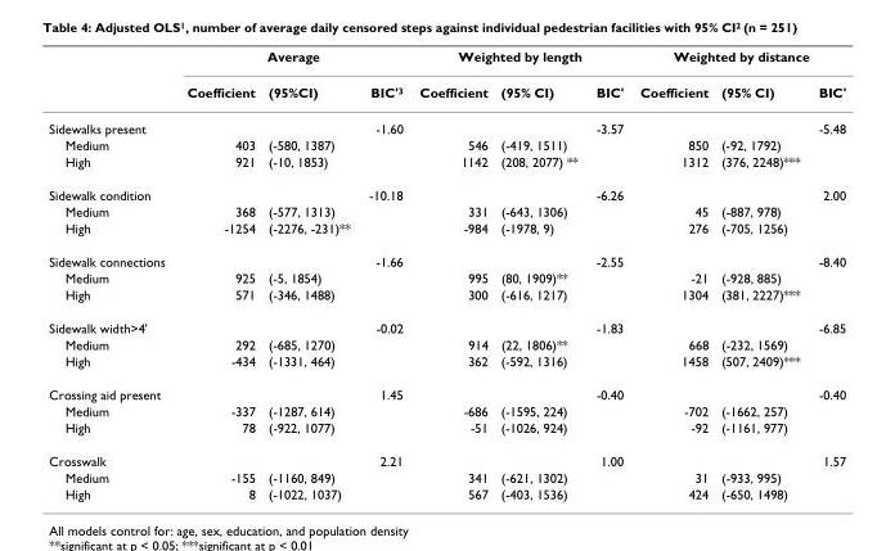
<table><thead><tr><td rowspan="2"></td><td colspan="3">Average</td><td colspan="3">Weighted by length</td><td colspan="3">Weighted by distance</td></tr><tr><td>Coefficient</td><td>(95%CI)</td><td>BIC&#x27;<sup>3</sup></td><td>Coefficient</td><td>(95% CI)</td><td>BIC&#x27;</td><td>Coefficient</td><td>(95% CI)</td><td>BIC&#x27;</td></tr></thead><tbody><tr><td>Sidewalks present</td><td></td><td></td><td>-1.60</td><td></td><td></td><td>-3.57</td><td></td><td></td><td>-5.48</td></tr><tr><td>Medium</td><td>403</td><td>(-580, 1387)</td><td></td><td>546</td><td>(-419, 1511)</td><td></td><td>850</td><td>(-92, 1792)</td><td></td></tr><tr><td>High</td><td>921</td><td>(-10, 1853)</td><td></td><td>1142</td><td>(208, 2077) **</td><td></td><td>1312</td><td>(376, 2248)***</td><td></td></tr><tr><td>Sidewalk condition</td><td></td><td></td><td>-10.18</td><td></td><td></td><td>-6.26</td><td></td><td></td><td>2.00</td></tr><tr><td>Medium</td><td>368</td><td>(-577, 1313)</td><td></td><td>331</td><td>(-643, 1306)</td><td></td><td>45</td><td>(-887, 978)</td><td></td></tr><tr><td>High</td><td>-1254</td><td>(-2276, -231)**</td><td></td><td>-984</td><td>(-1978, 9)</td><td></td><td>276</td><td>(-705, 1256)</td><td></td></tr><tr><td>Sidewalk connections</td><td></td><td></td><td>-1.66</td><td></td><td></td><td>-2.55</td><td></td><td></td><td>-8.40</td></tr><tr><td>Medium</td><td>925</td><td>(-5, 1854)</td><td></td><td>995</td><td>(80, 1909)**</td><td></td><td>-21</td><td>(-928, 885)</td><td></td></tr><tr><td>High</td><td>571</td><td>(-346, 1488)</td><td></td><td>300</td><td>(-616, 1217)</td><td></td><td>1304</td><td>(381, 2227)***</td><td></td></tr><tr><td>Sidewalk width&gt;4&#x27;</td><td></td><td></td><td>-0.02</td><td></td><td></td><td>-1.83</td><td></td><td></td><td>-6.85</td></tr><tr><td>Medium</td><td>292</td><td>(-685, 1270)</td><td></td><td>914</td><td>(22, 1806)**</td><td></td><td>668</td><td>(-232, 1569)</td><td></td></tr><tr><td>High</td><td>-434</td><td>(-1331, 464)</td><td></td><td>362</td><td>(-592, 1316)</td><td></td><td>1458</td><td>(507, 2409)***</td><td></td></tr><tr><td>Crossing aid present</td><td></td><td></td><td>1.45</td><td></td><td></td><td>-0.40</td><td></td><td></td><td>-0.40</td></tr><tr><td>Medium</td><td>-337</td><td>(-1287, 614)</td><td></td><td>-686</td><td>(-1595, 224)</td><td></td><td>-702</td><td>(-1662, 257)</td><td></td></tr><tr><td>High</td><td>78</td><td>(-922, 1077)</td><td></td><td>-51</td><td>(-1026, 924)</td><td></td><td>-92</td><td>(-1161, 977)</td><td></td></tr><tr><td>Crosswalk</td><td></td><td></td><td>2.21</td><td></td><td></td><td>1.00</td><td></td><td></td><td>1.57</td></tr><tr><td>Medium</td><td>-155</td><td>(-1160, 849)</td><td></td><td>341</td><td>(-621, 1302)</td><td></td><td>31</td><td>(-933, 995)</td><td></td></tr><tr><td>High</td><td>8</td><td>(-1022, 1037)</td><td></td><td>567</td><td>(-403, 1536)</td><td></td><td>424</td><td>(-650, 1498)</td><td></td></tr></tbody></table>